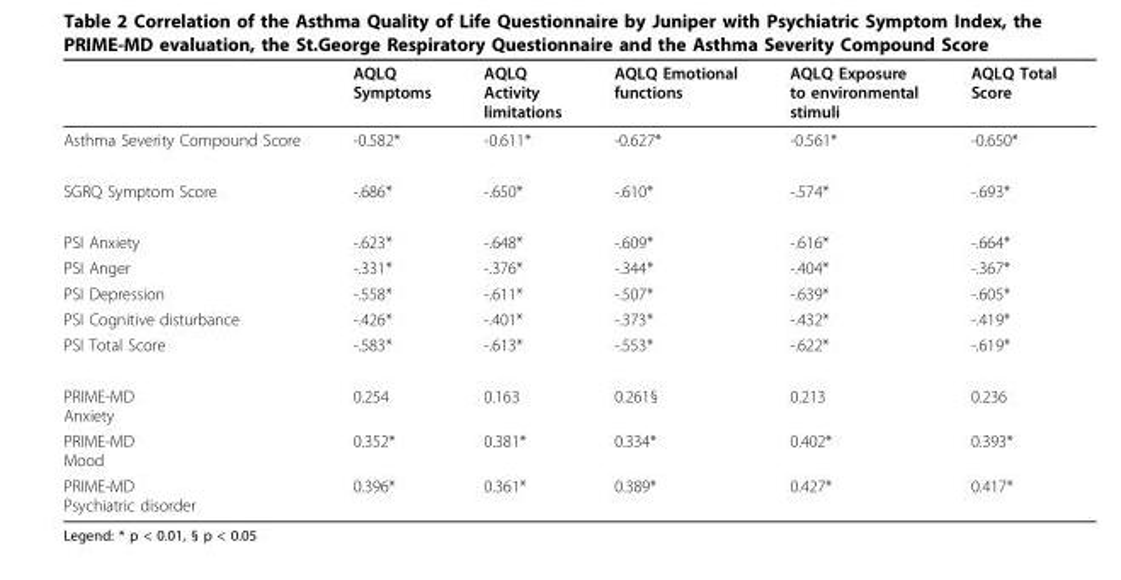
<table><thead><tr><td></td><td>AQLQ Symptoms</td><td>AQLQ Activity limitations</td><td>AQLQ Emotional functions</td><td>AQLQ Exposure to environmental stimuli</td><td>AQLQ Total Score</td></tr></thead><tbody><tr><td>Asthma Severity Compound Score</td><td>-0.582*</td><td>-0.611*</td><td>-0.627*</td><td>-0.561*</td><td>-0.650*</td></tr><tr><td>SGRQ Symptom Score</td><td>-.686*</td><td>-.650*</td><td>-.610*</td><td>-.574*</td><td>-.693*</td></tr><tr><td>PSI Anxiety</td><td>-.623*</td><td>-.648*</td><td>-.609*</td><td>-.616*</td><td>-.664*</td></tr><tr><td>PSI Anger</td><td>-.331*</td><td>-.376*</td><td>-.344*</td><td>-.404*</td><td>-.367*</td></tr><tr><td>PSI Depression</td><td>-.558*</td><td>-.611*</td><td>-.507*</td><td>-.639*</td><td>-.605*</td></tr><tr><td>PSI Cognitive disturbance</td><td>-.426*</td><td>-.401*</td><td>-.373*</td><td>-.432*</td><td>-.419*</td></tr><tr><td>PSI Total Score</td><td>-.583*</td><td>-.613*</td><td>-.553*</td><td>-.622*</td><td>-.619*</td></tr><tr><td>PRIME-MD Anxiety</td><td>0.254</td><td>0.163</td><td>0.261§</td><td>0.213</td><td>0.236</td></tr><tr><td>PRIME-MD Mood</td><td>0.352*</td><td>0.381*</td><td>0.334*</td><td>0.402*</td><td>0.393*</td></tr><tr><td>PRIME-MD Psychiatric disorder</td><td>0.396*</td><td>0.361*</td><td>0.389*</td><td>0.427*</td><td>0.417*</td></tr></tbody></table>